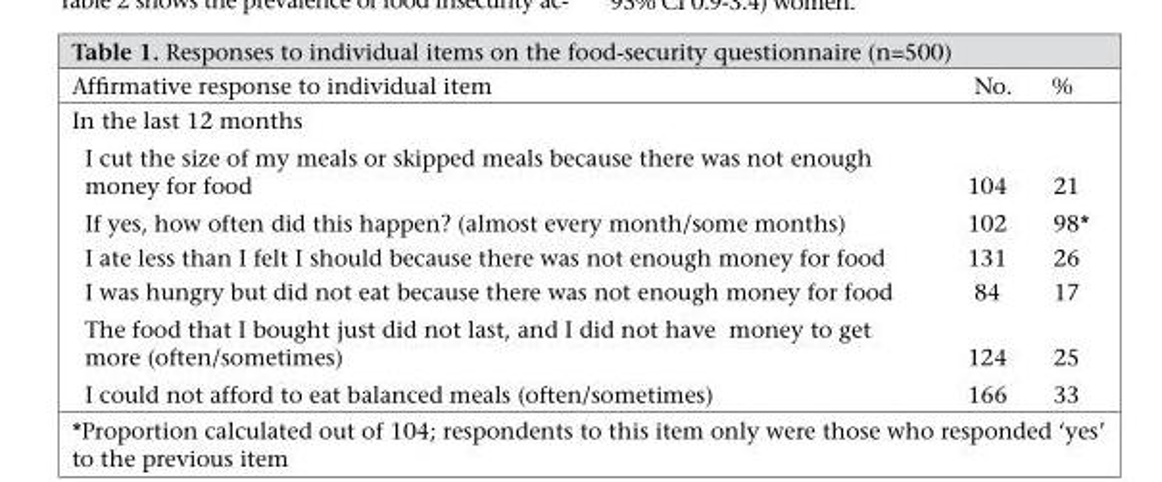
<table><thead><tr><td>Affirmative response to individual item</td><td>No.</td><td>%</td></tr></thead><tbody><tr><td colspan="3">In the last 12 months</td></tr><tr><td>I cut the size of my meals or skipped meals because there was not enough money for food</td><td>104</td><td>21</td></tr><tr><td>If yes, how often did this happen? (almost every month/some months)</td><td>102</td><td>98*</td></tr><tr><td>I ate less than I felt I should because there was not enough money for food</td><td>131</td><td>26</td></tr><tr><td>I was hungry but did not eat because there was not enough money for food</td><td>84</td><td>17</td></tr><tr><td>The food that I bought just did not last, and I did not have money to get more (often/sometimes)</td><td>124</td><td>25</td></tr><tr><td>I could not afford to eat balanced meals (often/sometimes)</td><td>166</td><td>33</td></tr></tbody></table>